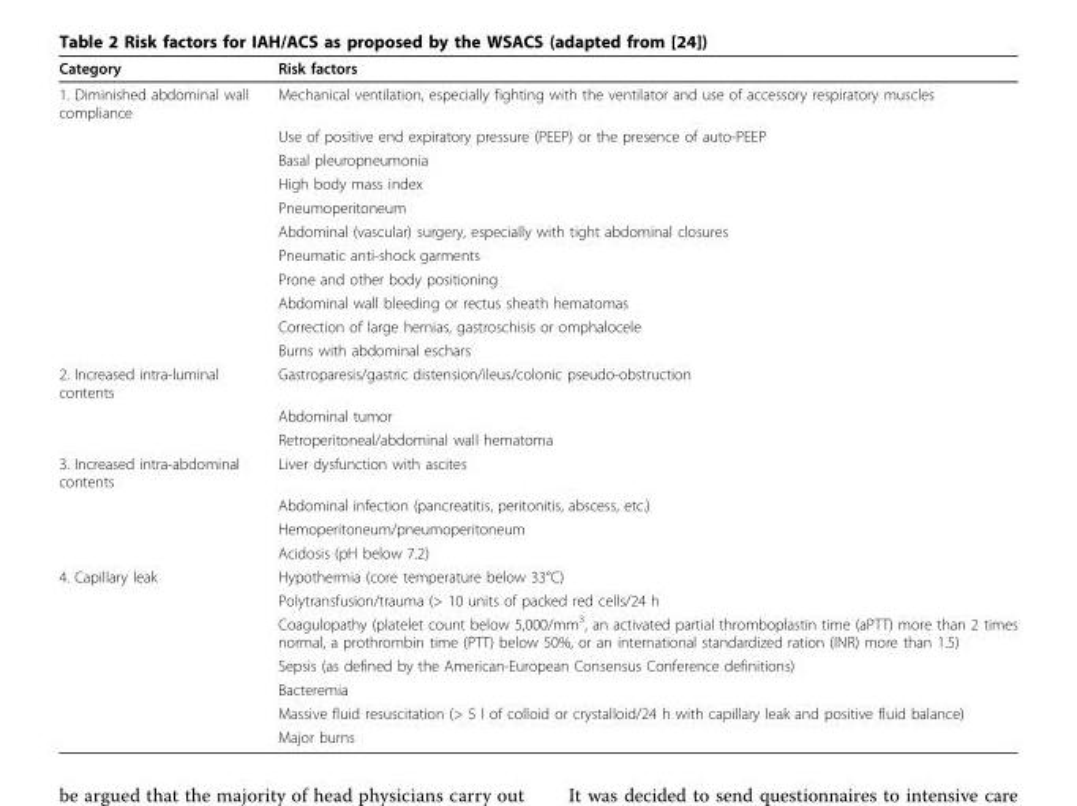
<table><thead><tr><td>Category</td><td>Risk factors</td></tr></thead><tbody><tr><td rowspan="11">1. Diminished abdominal wall compliance</td><td>Mechanical ventilation, especially fighting with the ventilator and use of accessory respiratory muscles</td></tr><tr><td>Use of positive end expiratory pressure (PEEP) or the presence of auto-PEEP</td></tr><tr><td>Basal pleuropneumonia</td></tr><tr><td>High body mass index</td></tr><tr><td>Pneumoperitoneum</td></tr><tr><td>Abdominal (vascular) surgery, especially with tight abdominal closures</td></tr><tr><td>Pneumatic anti-shock garments</td></tr><tr><td>Prone and other body positioning</td></tr><tr><td>Abdominal wall bleeding or rectus sheath hematomas</td></tr><tr><td>Correction of large hernias, gastroschisis or omphalocele</td></tr><tr><td>Burns with abdominal eschars</td></tr><tr><td rowspan="3">2. Increased intra-luminal contents</td><td>Gastroparesis/gastric distension/ileus/colonic pseudo-obstruction</td></tr><tr><td>Abdominal tumor</td></tr><tr><td>Retroperitoneal/abdominal wall hematoma</td></tr><tr><td rowspan="4">3. Increased intra-abdominal contents</td><td>Liver dysfunction with ascites</td></tr><tr><td>Abdominal infection (pancreatitis, peritonitis, abscess, etc.)</td></tr><tr><td>Hemoperitoneum/pneumoperitoneum</td></tr><tr><td>Acidosis (pH below 7.2)</td></tr><tr><td rowspan="7">4. Capillary leak</td><td>Hypothermia (core temperature below 33°C)</td></tr><tr><td>Polytransfusion/trauma (&gt; 10 units of packed red cells/24 h</td></tr><tr><td>Coagulopathy (platelet count below 5,000/mm<sup>3</sup>, an activated partial thromboplastin time (aPTT) more than 2 times normal, a prothrombin time (PTT) below 50%, or an international standardized ration (INR) more than 1.5)</td></tr><tr><td>Sepsis (as defined by the American-European Consensus Conference definitions)</td></tr><tr><td>Bacteremia</td></tr><tr><td>Massive fluid resuscitation (&gt; 5 l of colloid or crystalloid/24 h with capillary leak and positive fluid balance)</td></tr><tr><td>Major burns</td></tr></tbody></table>